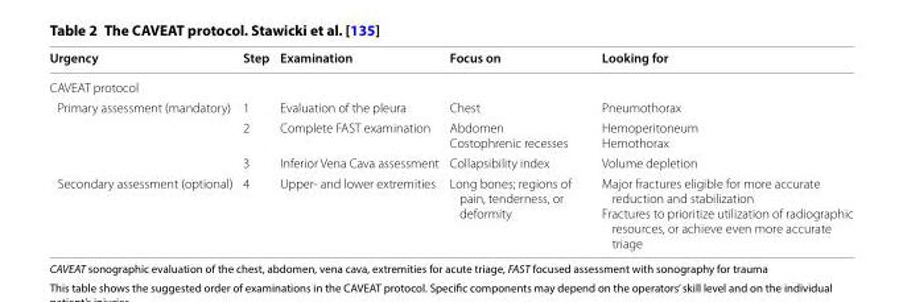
<table><thead><tr><td>Urgency</td><td>Step</td><td>Examination</td><td>Focus on</td><td>Looking for</td></tr></thead><tbody><tr><td colspan="5">CAVEAT protocol</td></tr><tr><td rowspan="3">Primary assessment (mandatory)</td><td>1</td><td>Evaluation of the pleura</td><td>Chest</td><td>Pneumothorax</td></tr><tr><td>2</td><td>Complete FAST examination</td><td>Abdomen Costophrenic recesses</td><td>Hemoperitoneum Hemothorax</td></tr><tr><td>3</td><td>Inferior Vena Cava assessment</td><td>Collapsibility index</td><td>Volume depletion</td></tr><tr><td>Secondary assessment (optional)</td><td>4</td><td>Upper‑ and lower extremities</td><td>Long bones; regions of pain, tenderness, or deformity</td><td>Major fractures eligible for more accurate reduction and stabilization Fractures to prioritize utilization of radiographic resources, or achieve even more accurate triage</td></tr></tbody></table>